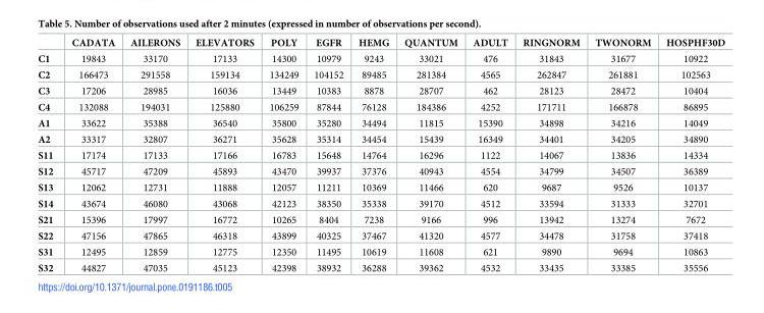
<table><thead><tr><td></td><td>CADATA</td><td>AILERONS</td><td>ELEVATORS</td><td>POLY</td><td>EGFR</td><td>HEMG</td><td>QUANTUM</td><td>ADULT</td><td>RINGNORM</td><td>TWONORM</td><td>HOSPHF30D</td></tr></thead><tbody><tr><td>C1</td><td>19843</td><td>33170</td><td>17133</td><td>14300</td><td>10979</td><td>9243</td><td>33021</td><td>476</td><td>31843</td><td>31677</td><td>10922</td></tr><tr><td>C2</td><td>166473</td><td>291558</td><td>159134</td><td>134249</td><td>104152</td><td>89485</td><td>281384</td><td>4565</td><td>262847</td><td>261881</td><td>102563</td></tr><tr><td>C3</td><td>17206</td><td>28985</td><td>16036</td><td>13449</td><td>10383</td><td>8878</td><td>28707</td><td>462</td><td>28123</td><td>28472</td><td>10404</td></tr><tr><td>C4</td><td>132088</td><td>194031</td><td>125880</td><td>106259</td><td>87844</td><td>76128</td><td>184386</td><td>4252</td><td>171711</td><td>166878</td><td>86895</td></tr><tr><td>A1</td><td>33622</td><td>35388</td><td>36540</td><td>35800</td><td>35280</td><td>34494</td><td>11815</td><td>15390</td><td>34898</td><td>34216</td><td>14049</td></tr><tr><td>A2</td><td>33317</td><td>32807</td><td>36271</td><td>35628</td><td>35314</td><td>34454</td><td>15439</td><td>16349</td><td>34401</td><td>34205</td><td>34890</td></tr><tr><td>S11</td><td>17174</td><td>17133</td><td>17166</td><td>16783</td><td>15648</td><td>14764</td><td>16296</td><td>1122</td><td>14067</td><td>13836</td><td>14334</td></tr><tr><td>S12</td><td>45717</td><td>47209</td><td>45893</td><td>43470</td><td>39937</td><td>37376</td><td>40943</td><td>4554</td><td>34799</td><td>34507</td><td>36389</td></tr><tr><td>S13</td><td>12062</td><td>12731</td><td>11888</td><td>12057</td><td>11211</td><td>10369</td><td>11466</td><td>620</td><td>9687</td><td>9526</td><td>10137</td></tr><tr><td>S14</td><td>43674</td><td>46080</td><td>43068</td><td>42123</td><td>38350</td><td>35338</td><td>39170</td><td>4512</td><td>33594</td><td>31333</td><td>32701</td></tr><tr><td>S21</td><td>15396</td><td>17997</td><td>16772</td><td>10265</td><td>8404</td><td>7238</td><td>9166</td><td>996</td><td>13942</td><td>13274</td><td>7672</td></tr><tr><td>S22</td><td>47156</td><td>47865</td><td>46318</td><td>43899</td><td>40325</td><td>37467</td><td>41320</td><td>4577</td><td>34478</td><td>31758</td><td>37418</td></tr><tr><td>S31</td><td>12495</td><td>12859</td><td>12775</td><td>12350</td><td>11495</td><td>10619</td><td>11608</td><td>621</td><td>9890</td><td>9694</td><td>10863</td></tr><tr><td>S32</td><td>44827</td><td>47035</td><td>45123</td><td>42398</td><td>38932</td><td>36288</td><td>39362</td><td>4532</td><td>33435</td><td>33385</td><td>35556</td></tr></tbody></table>